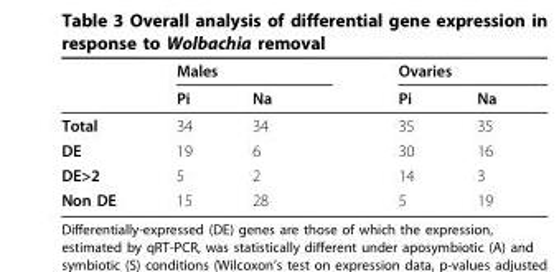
<table><thead><tr><td rowspan="2"></td><td colspan="2">Males</td><td colspan="2">Ovaries</td></tr><tr><td>Pi</td><td>Na</td><td>Pi</td><td>Na</td></tr></thead><tbody><tr><td>Total</td><td>34</td><td>34</td><td>35</td><td>35</td></tr><tr><td>DE</td><td>19</td><td>6</td><td>30</td><td>16</td></tr><tr><td>DE&gt;2</td><td>5</td><td>2</td><td>14</td><td>3</td></tr><tr><td>Non DE</td><td>15</td><td>28</td><td>5</td><td>19</td></tr></tbody></table>